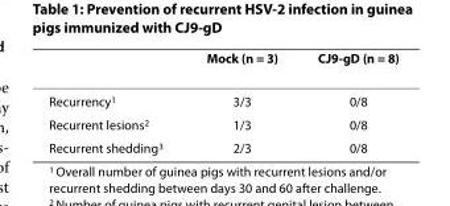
<table><thead><tr><td></td><td>Mock (n = 3)</td><td>CJ9-gD (n = 8)</td></tr></thead><tbody><tr><td>Recurrency<sup>1</sup></td><td>3/3</td><td>0/8</td></tr><tr><td>Recurrent lesions<sup>2</sup></td><td>1/3</td><td>0/8</td></tr><tr><td>Recurrent shedding<sup>3</sup></td><td>2/3</td><td>0/8</td></tr></tbody></table>